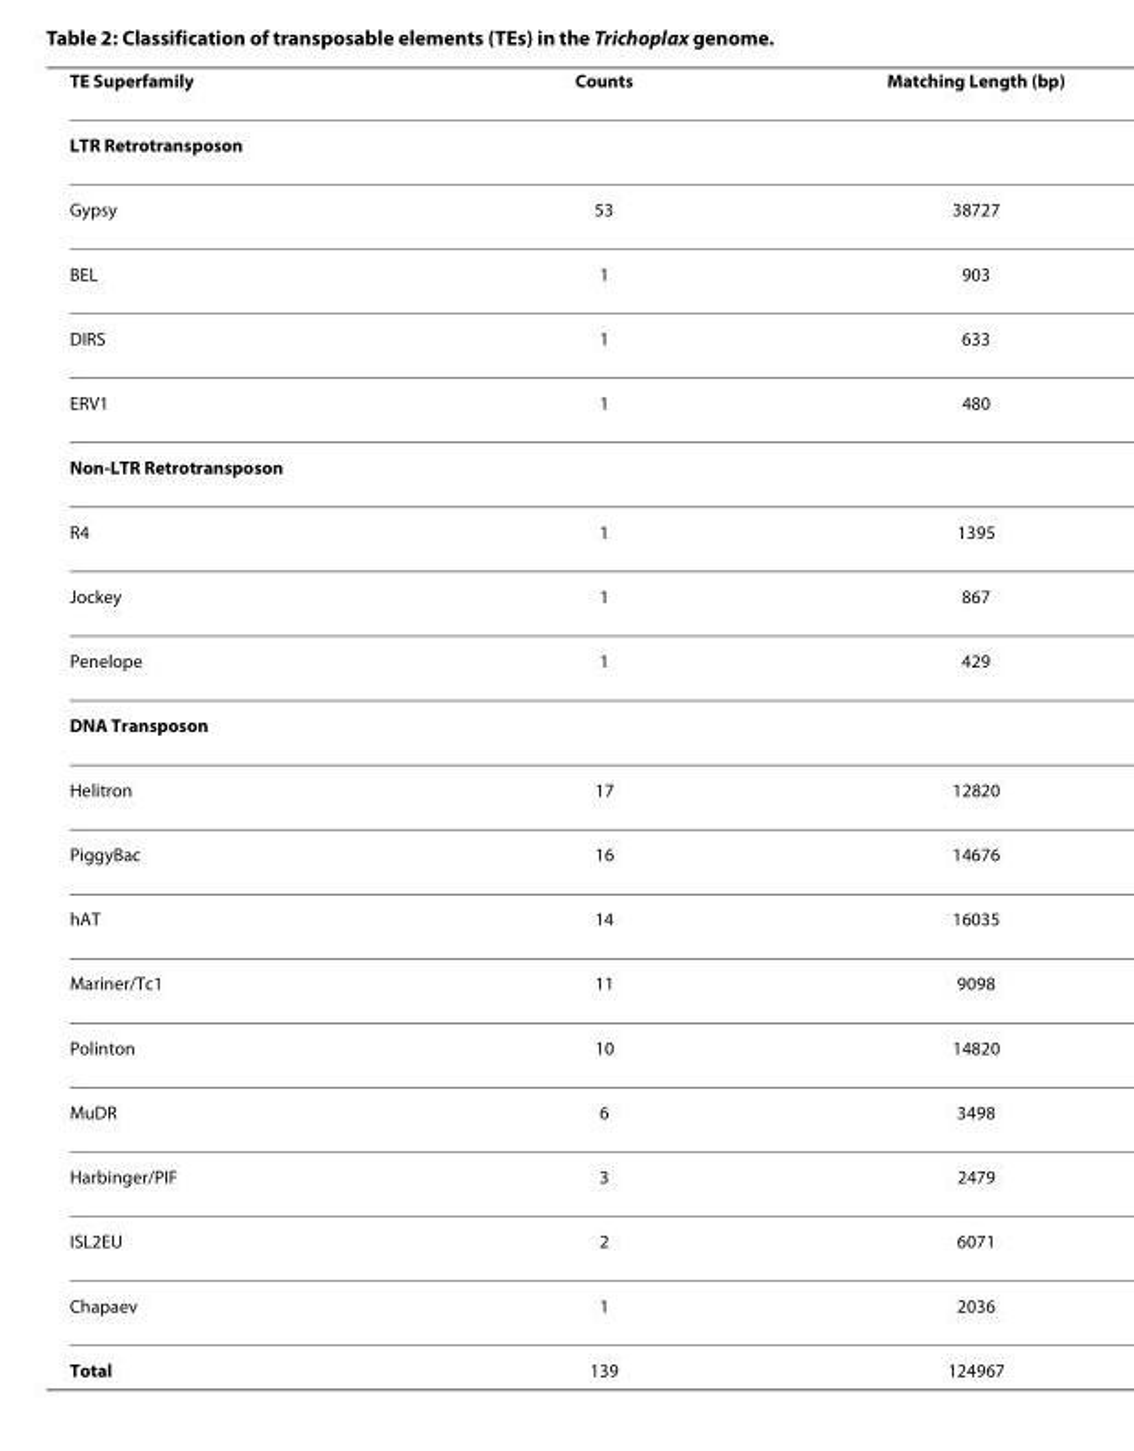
<table><thead><tr><td>TE Superfamily</td><td>Counts</td><td>Matching Length (bp)</td></tr></thead><tbody><tr><td colspan="3">LTR Retrotransposon</td></tr><tr><td>Gypsy</td><td>53</td><td>38727</td></tr><tr><td>BEL</td><td>1</td><td>903</td></tr><tr><td>DIRS</td><td>1</td><td>633</td></tr><tr><td>ERV1</td><td>1</td><td>480</td></tr><tr><td colspan="3">Non-LTR Retrotransposon</td></tr><tr><td>R4</td><td>1</td><td>1395</td></tr><tr><td>Jockey</td><td>1</td><td>867</td></tr><tr><td>Penelope</td><td>1</td><td>429</td></tr><tr><td colspan="3">DNA Transposon</td></tr><tr><td>Helitron</td><td>17</td><td>12820</td></tr><tr><td>PiggyBac</td><td>16</td><td>14676</td></tr><tr><td>hAT</td><td>14</td><td>16035</td></tr><tr><td>Mariner/Tc1</td><td>11</td><td>9098</td></tr><tr><td>Polinton</td><td>10</td><td>14820</td></tr><tr><td>MuDR</td><td>6</td><td>3498</td></tr><tr><td>Harbinger/PIF</td><td>3</td><td>2479</td></tr><tr><td>ISL2EU</td><td>2</td><td>6071</td></tr><tr><td>Chapaev</td><td>1</td><td>2036</td></tr><tr><td>Total</td><td>139</td><td>124967</td></tr></tbody></table>